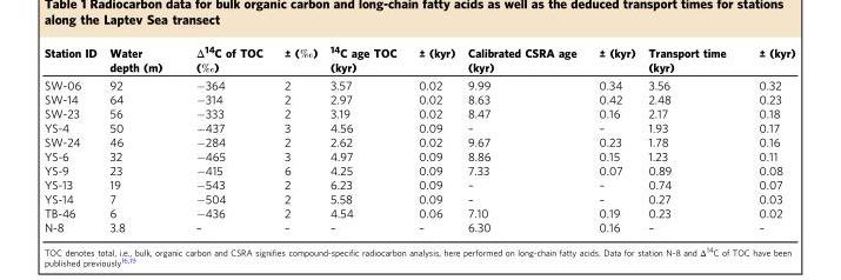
<table><thead><tr><td>Station ID</td><td>Water depth (m)</td><td>Δ<sup>14</sup>C of TOC (‰)</td><td>± (‰)</td><td><sup>14</sup>C age TOC (kyr)</td><td>± (kyr)</td><td>Calibrated CSRA age (kyr)</td><td>± (kyr)</td><td>Transport time (kyr)</td><td>± (kyr)</td></tr></thead><tbody><tr><td>SW-06</td><td>92</td><td>−364</td><td>2</td><td>3.57</td><td>0.02</td><td>9.99</td><td>0.34</td><td>3.56</td><td>0.32</td></tr><tr><td>SW-14</td><td>64</td><td>−314</td><td>2</td><td>2.97</td><td>0.02</td><td>8.63</td><td>0.42</td><td>2.48</td><td>0.23</td></tr><tr><td>SW-23</td><td>56</td><td>−333</td><td>2</td><td>3.19</td><td>0.02</td><td>8.47</td><td>0.16</td><td>2.17</td><td>0.18</td></tr><tr><td>YS-4</td><td>50</td><td>−437</td><td>3</td><td>4.56</td><td>0.09</td><td>–</td><td>–</td><td>1.93</td><td>0.17</td></tr><tr><td>SW-24</td><td>46</td><td>−284</td><td>2</td><td>2.62</td><td>0.02</td><td>9.67</td><td>0.23</td><td>1.78</td><td>0.16</td></tr><tr><td>YS-6</td><td>32</td><td>−465</td><td>3</td><td>4.97</td><td>0.09</td><td>8.86</td><td>0.15</td><td>1.23</td><td>0.11</td></tr><tr><td>YS-9</td><td>23</td><td>−415</td><td>6</td><td>4.25</td><td>0.09</td><td>7.33</td><td>0.07</td><td>0.89</td><td>0.08</td></tr><tr><td>YS-13</td><td>19</td><td>−543</td><td>2</td><td>6.23</td><td>0.09</td><td>–</td><td>–</td><td>0.74</td><td>0.07</td></tr><tr><td>YS-14</td><td>7</td><td>−504</td><td>2</td><td>5.58</td><td>0.09</td><td>–</td><td>–</td><td>0.27</td><td>0.03</td></tr><tr><td>TB-46</td><td>6</td><td>−436</td><td>2</td><td>4.54</td><td>0.06</td><td>7.10</td><td>0.19</td><td>0.23</td><td>0.02</td></tr><tr><td>N-8</td><td>3.8</td><td>–</td><td>–</td><td>–</td><td>–</td><td>6.30</td><td>0.16</td><td>–</td><td>–</td></tr></tbody></table>